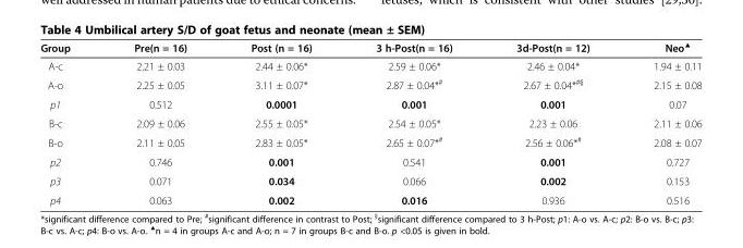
<table><thead><tr><td>Group</td><td>Pre(n = 16)</td><td>Post (n = 16)</td><td>3 h-Post(n = 16)</td><td>3d-Post(n = 12)</td><td>Neo▲</td></tr></thead><tbody><tr><td>A-c</td><td>2.21 ± 0.03</td><td>2.44 ± 0.06*</td><td>2.59 ± 0.06*</td><td>2.46 ± 0.04*</td><td>1.94 ± 0.11</td></tr><tr><td>A-o</td><td>2.25 ± 0.05</td><td>3.11 ± 0.07*</td><td>2.87 ± 0.04*<sup>#</sup></td><td>2.67 ± 0.04*<sup>#§</sup></td><td>2.15 ± 0.08</td></tr><tr><td>p1</td><td>0.512</td><td>0.0001</td><td>0.001</td><td>0.001</td><td>0.07</td></tr><tr><td>B-c</td><td>2.09 ± 0.06</td><td>2.55 ± 0.05*</td><td>2.54 ± 0.05*</td><td>2.23 ± 0.06</td><td>2.11 ± 0.06</td></tr><tr><td>B-o</td><td>2.11 ± 0.05</td><td>2.83 ± 0.05*</td><td>2.65 ± 0.07*<sup>#</sup></td><td>2.56 ± 0.06*<sup>#</sup></td><td>2.08 ± 0.07</td></tr><tr><td>p2</td><td>0.746</td><td>0.001</td><td>0.541</td><td>0.001</td><td>0.727</td></tr><tr><td>p3</td><td>0.071</td><td>0.034</td><td>0.066</td><td>0.002</td><td>0.153</td></tr><tr><td>p4</td><td>0.063</td><td>0.002</td><td>0.016</td><td>0.936</td><td>0.516</td></tr></tbody></table>